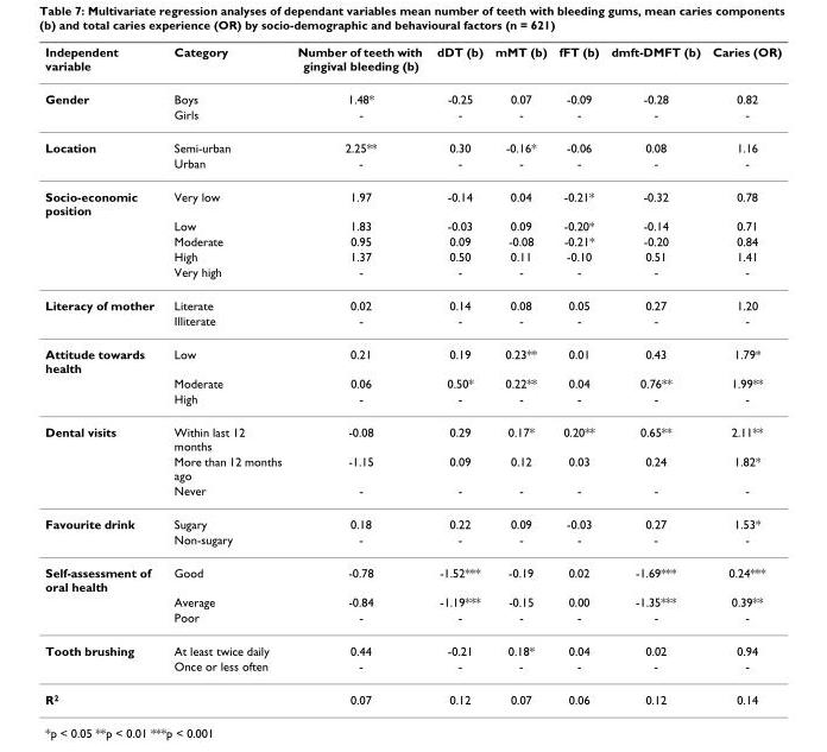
<table><thead><tr><td>Independent variable</td><td>Category</td><td>Number of teeth with gingival bleeding (b)</td><td>dDT (b)</td><td>mMT (b)</td><td>fFT (b)</td><td>dmft-DMFT (b)</td><td>Caries (OR)</td></tr></thead><tbody><tr><td rowspan="2">Gender</td><td>Boys</td><td>1.48*</td><td>-0.25</td><td>0.07</td><td>-0.09</td><td>-0.28</td><td>0.82</td></tr><tr><td>Girls</td><td>-</td><td>-</td><td>-</td><td>-</td><td>-</td><td>-</td></tr><tr><td rowspan="2">Location</td><td>Semi-urban</td><td>2.25**</td><td>0.30</td><td>-0.16*</td><td>-0.06</td><td>0.08</td><td>1.16</td></tr><tr><td>Urban</td><td>-</td><td>-</td><td>-</td><td>-</td><td>-</td><td>-</td></tr><tr><td rowspan="5">Socio-economic position</td><td>Very low</td><td>1.97</td><td>-0.14</td><td>0.04</td><td>-0.21*</td><td>-0.32</td><td>0.78</td></tr><tr><td>Low</td><td>1.83</td><td>-0.03</td><td>0.09</td><td>-0.20*</td><td>-0.14</td><td>0.71</td></tr><tr><td>Moderate</td><td>0.95</td><td>0.09</td><td>-0.08</td><td>-0.21*</td><td>-0.20</td><td>0.84</td></tr><tr><td>High</td><td>1.37</td><td>0.50</td><td>0.11</td><td>-0.10</td><td>0.51</td><td>1.41</td></tr><tr><td>Very high</td><td>-</td><td>-</td><td>-</td><td>-</td><td>-</td><td>-</td></tr><tr><td rowspan="2">Literacy of mother</td><td>Literate</td><td>0.02</td><td>0.14</td><td>0.08</td><td>0.05</td><td>0.27</td><td>1.20</td></tr><tr><td>Illiterate</td><td>-</td><td>-</td><td>-</td><td>-</td><td>-</td><td>-</td></tr><tr><td rowspan="3">Attitude towards health</td><td>Low</td><td>0.21</td><td>0.19</td><td>0.23**</td><td>0.01</td><td>0.43</td><td>1.79*</td></tr><tr><td>Moderate</td><td>0.06</td><td>0.50*</td><td>0.22**</td><td>0.04</td><td>0.76**</td><td>1.99**</td></tr><tr><td>High</td><td>-</td><td>-</td><td>-</td><td>-</td><td>-</td><td>-</td></tr><tr><td rowspan="3">Dental visits</td><td>Within last 12 months</td><td>-0.08</td><td>0.29</td><td>0.17*</td><td>0.20**</td><td>0.65**</td><td>2.11**</td></tr><tr><td>More than 12 months ago</td><td>-1.15</td><td>0.09</td><td>0.12</td><td>0.03</td><td>0.24</td><td>1.82*</td></tr><tr><td>Never</td><td>-</td><td>-</td><td>-</td><td>-</td><td>-</td><td>-</td></tr><tr><td rowspan="2">Favourite drink</td><td>Sugary</td><td>0.18</td><td>0.22</td><td>0.09</td><td>-0.03</td><td>0.27</td><td>1.53*</td></tr><tr><td>Non-sugary</td><td>-</td><td>-</td><td>-</td><td>-</td><td>-</td><td>-</td></tr><tr><td rowspan="3">Self-assessment of oral health</td><td>Good</td><td>-0.78</td><td>-1.52***</td><td>-0.19</td><td>0.02</td><td>-1.69***</td><td>0.24***</td></tr><tr><td>Average</td><td>-0.84</td><td>-1.19***</td><td>-0.15</td><td>0.00</td><td>-1.35***</td><td>0.39**</td></tr><tr><td>Poor</td><td>-</td><td>-</td><td>-</td><td>-</td><td>-</td><td>-</td></tr><tr><td rowspan="2">Tooth brushing</td><td>At least twice daily</td><td>0.44</td><td>-0.21</td><td>0.18*</td><td>0.04</td><td>0.02</td><td>0.94</td></tr><tr><td>Once or less often</td><td>-</td><td>-</td><td>-</td><td>-</td><td>-</td><td>-</td></tr><tr><td>R<sup>2</sup></td><td></td><td>0.07</td><td>0.12</td><td>0.07</td><td>0.06</td><td>0.12</td><td>0.14</td></tr></tbody></table>